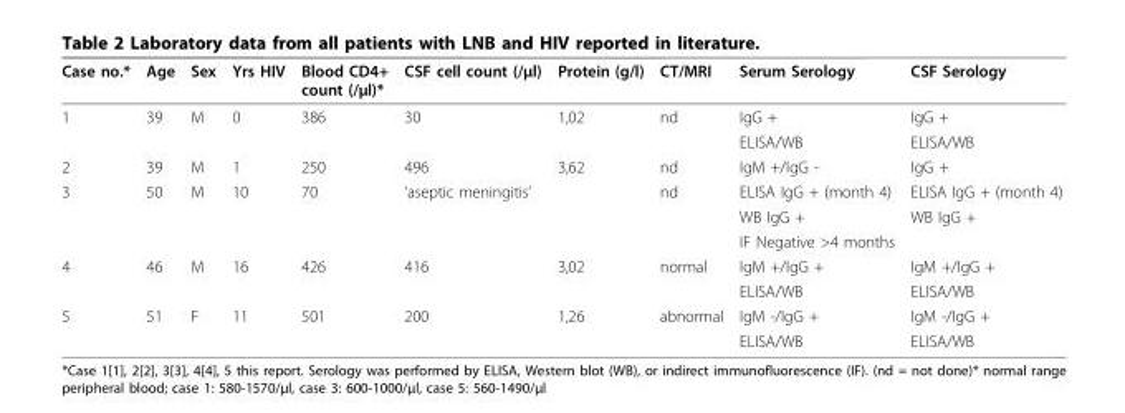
<table><thead><tr><td>Case no.*</td><td>Age</td><td>Sex</td><td>Yrs HIV</td><td>Blood CD4+ count (/μl)*</td><td>CSF cell count (/μl)</td><td>Protein (g/l)</td><td>CT/MRI</td><td>Serum Serology</td><td>CSF Serology</td></tr></thead><tbody><tr><td rowspan="2">1</td><td>39</td><td>M</td><td>0</td><td>386</td><td>30</td><td>1,02</td><td>nd</td><td>IgG +</td><td>IgG +</td></tr><tr><td></td><td></td><td></td><td></td><td></td><td></td><td></td><td>ELISA/WB</td><td>ELISA/WB</td></tr><tr><td>2</td><td>39</td><td>M</td><td>1</td><td>250</td><td>496</td><td>3,62</td><td>nd</td><td>IgM +/IgG -</td><td>IgG +</td></tr><tr><td rowspan="3">3</td><td>50</td><td>M</td><td>10</td><td>70</td><td colspan="2">‘aseptic meningitis’</td><td>nd</td><td>ELISA IgG + (month 4)</td><td>ELISA IgG + (month 4)</td></tr><tr><td></td><td></td><td></td><td></td><td></td><td></td><td></td><td>WB IgG +</td><td>WB IgG +</td></tr><tr><td></td><td></td><td></td><td></td><td></td><td></td><td></td><td>IF Negative &gt;4 months</td><td></td></tr><tr><td rowspan="2">4</td><td>46</td><td>M</td><td>16</td><td>426</td><td>416</td><td>3,02</td><td>normal</td><td>IgM +/IgG +</td><td>IgM +/IgG +</td></tr><tr><td></td><td></td><td></td><td></td><td></td><td></td><td></td><td>ELISA/WB</td><td>ELISA/WB</td></tr><tr><td rowspan="2">5</td><td>51</td><td>F</td><td>11</td><td>501</td><td>200</td><td>1,26</td><td>abnormal</td><td>IgM -/IgG +</td><td>IgM -/IgG +</td></tr><tr><td></td><td></td><td></td><td></td><td></td><td></td><td></td><td>ELISA/WB</td><td>ELISA/WB</td></tr></tbody></table>